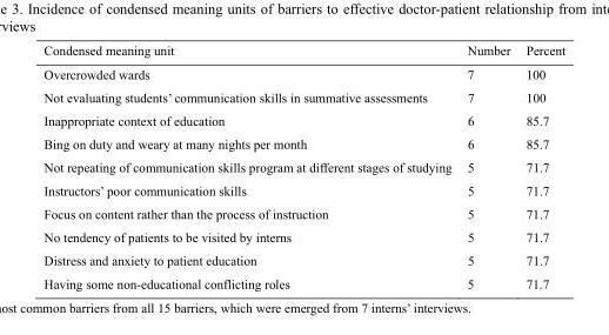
<table><thead><tr><td>Condensed meaning unit</td><td>Number</td><td>Percent</td></tr></thead><tbody><tr><td>Overcrowded wards</td><td>7</td><td>100</td></tr><tr><td>Not evaluating students’ communication skills in summative assessments</td><td>7</td><td>100</td></tr><tr><td>Inappropriate context of education</td><td>6</td><td>85.7</td></tr><tr><td>Bing on duty and weary at many nights per month</td><td>6</td><td>85.7</td></tr><tr><td>Not repeating of communication skills program at different stages of studying</td><td>5</td><td>71.7</td></tr><tr><td>Instructors’ poor communication skills</td><td>5</td><td>71.7</td></tr><tr><td>Focus on content rather than the process of instruction</td><td>5</td><td>71.7</td></tr><tr><td>No tendency of patients to be visited by interns</td><td>5</td><td>71.7</td></tr><tr><td>Distress and anxiety to patient education</td><td>5</td><td>71.7</td></tr><tr><td>Having some non-educational conflicting roles</td><td>5</td><td>71.7</td></tr></tbody></table>